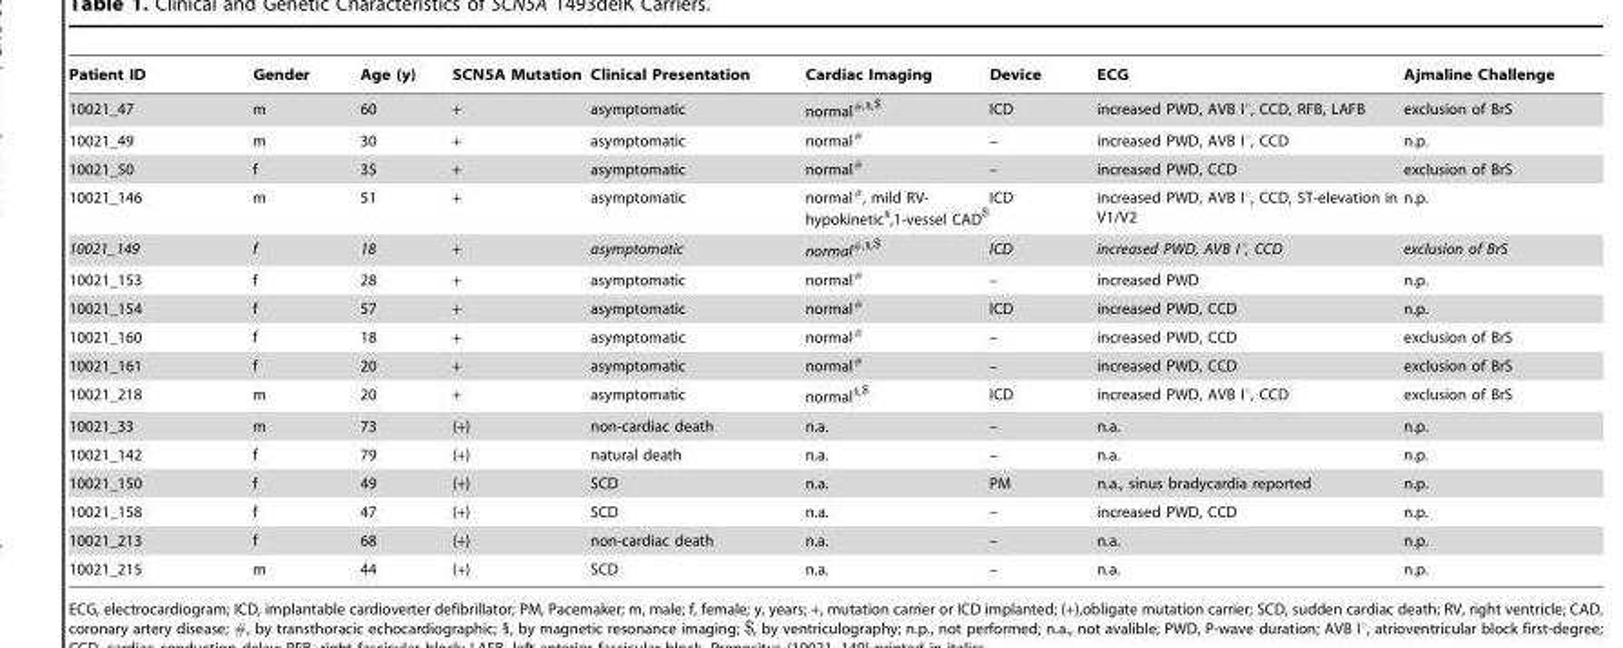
<table><thead><tr><td>Patient ID</td><td>Gender</td><td>Age (y)</td><td>SCN5A Mutation</td><td>Clinical Presentation</td><td>Cardiac Imaging</td><td>Device</td><td>ECG</td><td>Ajmaline Challenge</td></tr></thead><tbody><tr><td>10021_47</td><td>m</td><td>60</td><td>+</td><td>asymptomatic</td><td>normal<sup>#,§,$</sup></td><td>ICD</td><td>increased PWD, AVB I°, CCD, RFB, LAFB</td><td>exclusion of BrS</td></tr><tr><td>10021_49</td><td>m</td><td>30</td><td>+</td><td>asymptomatic</td><td>normal<sup>#</sup></td><td>–</td><td>increased PWD, AVB I°, CCD</td><td>n.p.</td></tr><tr><td>10021_50</td><td>f</td><td>35</td><td>+</td><td>asymptomatic</td><td>normal<sup>#</sup></td><td>–</td><td>increased PWD, CCD</td><td>exclusion of BrS</td></tr><tr><td>10021_146</td><td>m</td><td>51</td><td>+</td><td>asymptomatic</td><td>normal<sup>#</sup>, mild RV- hypokinetic<sup>§</sup>,1-vessel CAD<sup>$</sup></td><td>ICD</td><td>increased PWD, AVB I°, CCD, ST-elevation in V1/V2</td><td>n.p.</td></tr><tr><td>10021_149</td><td>f</td><td>18</td><td>+</td><td>asymptomatic</td><td>normal<sup>#,§,$</sup></td><td>ICD</td><td>increased PWD, AVB I°, CCD</td><td>exclusion of BrS</td></tr><tr><td>10021_153</td><td>f</td><td>28</td><td>+</td><td>asymptomatic</td><td>normal<sup>#</sup></td><td>–</td><td>increased PWD</td><td>n.p.</td></tr><tr><td>10021_154</td><td>f</td><td>57</td><td>+</td><td>asymptomatic</td><td>normal<sup>#</sup></td><td>ICD</td><td>increased PWD, CCD</td><td>n.p.</td></tr><tr><td>10021_160</td><td>f</td><td>18</td><td>+</td><td>asymptomatic</td><td>normal<sup>#</sup></td><td>–</td><td>increased PWD, CCD</td><td>exclusion of BrS</td></tr><tr><td>10021_161</td><td>f</td><td>20</td><td>+</td><td>asymptomatic</td><td>normal<sup>#</sup></td><td>–</td><td>increased PWD, CCD</td><td>exclusion of BrS</td></tr><tr><td>10021_218</td><td>m</td><td>20</td><td>+</td><td>asymptomatic</td><td>normal<sup>§,$</sup></td><td>ICD</td><td>increased PWD, AVB I°, CCD</td><td>exclusion of BrS</td></tr><tr><td>10021_33</td><td>m</td><td>73</td><td>(+)</td><td>non-cardiac death</td><td>n.a.</td><td>–</td><td>n.a.</td><td>n.p.</td></tr><tr><td>10021_142</td><td>f</td><td>79</td><td>(+)</td><td>natural death</td><td>n.a.</td><td>–</td><td>n.a.</td><td>n.p.</td></tr><tr><td>10021_150</td><td>f</td><td>49</td><td>(+)</td><td>SCD</td><td>n.a.</td><td>PM</td><td>n.a., sinus bradycardia reported</td><td>n.p.</td></tr><tr><td>10021_158</td><td>f</td><td>47</td><td>(+)</td><td>SCD</td><td>n.a.</td><td>–</td><td>increased PWD, CCD</td><td>n.p.</td></tr><tr><td>10021_213</td><td>f</td><td>68</td><td>(+)</td><td>non-cardiac death</td><td>n.a.</td><td>–</td><td>n.a.</td><td>n.p.</td></tr><tr><td>10021_215</td><td>m</td><td>44</td><td>(+)</td><td>SCD</td><td>n.a.</td><td>–</td><td>n.a.</td><td>n.p.</td></tr></tbody></table>